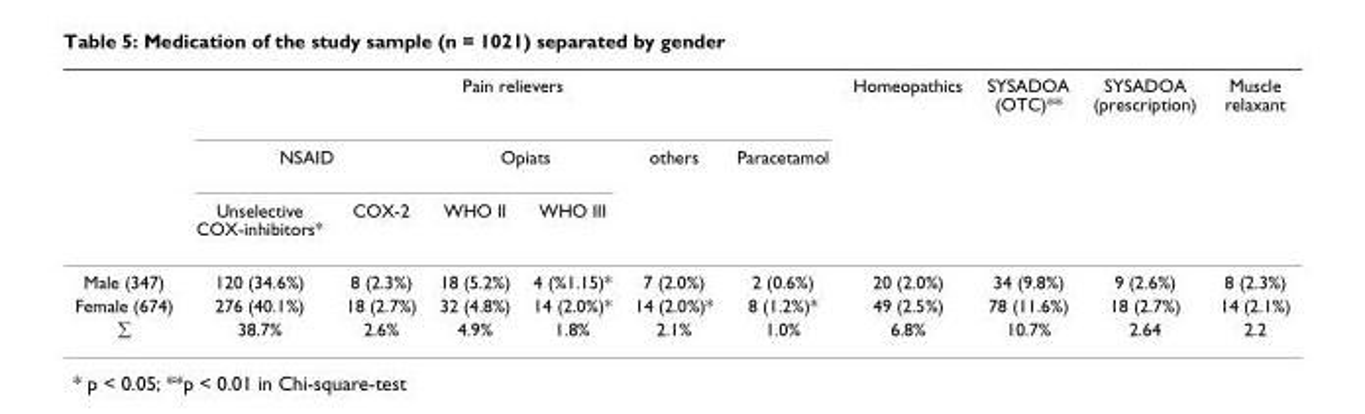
<table><thead><tr><td rowspan="3"></td><td colspan="6">Pain relievers</td><td rowspan="3">Homeopathics</td><td rowspan="3">SYSADOA (OTC)**</td><td rowspan="3">SYSADOA (prescription)</td><td rowspan="3">Muscle relaxant</td></tr><tr><td colspan="2">NSAID</td><td colspan="2">Opiats</td><td rowspan="2">others</td><td rowspan="2">Paracetamol</td></tr><tr><td>Unselective COX-inhibitors*</td><td>COX-2</td><td>WHO II</td><td>WHO III</td></tr></thead><tbody><tr><td>Male (347)</td><td>120 (34.6%)</td><td>8 (2.3%)</td><td>18 (5.2%)</td><td>4 (%1.15)*</td><td>7 (2.0%)</td><td>2 (0.6%)</td><td>20 (2.0%)</td><td>34 (9.8%)</td><td>9 (2.6%)</td><td>8 (2.3%)</td></tr><tr><td>Female (674)</td><td>276 (40.1%)</td><td>18 (2.7%)</td><td>32 (4.8%)</td><td>14 (2.0%)*</td><td>14 (2.0%)*</td><td>8 (1.2%)*</td><td>49 (2.5%)</td><td>78 (11.6%)</td><td>18 (2.7%)</td><td>14 (2.1%)</td></tr><tr><td>∑</td><td>38.7%</td><td>2.6%</td><td>4.9%</td><td>1.8%</td><td>2.1%</td><td>1.0%</td><td>6.8%</td><td>10.7%</td><td>2.64</td><td>2.2</td></tr></tbody></table>